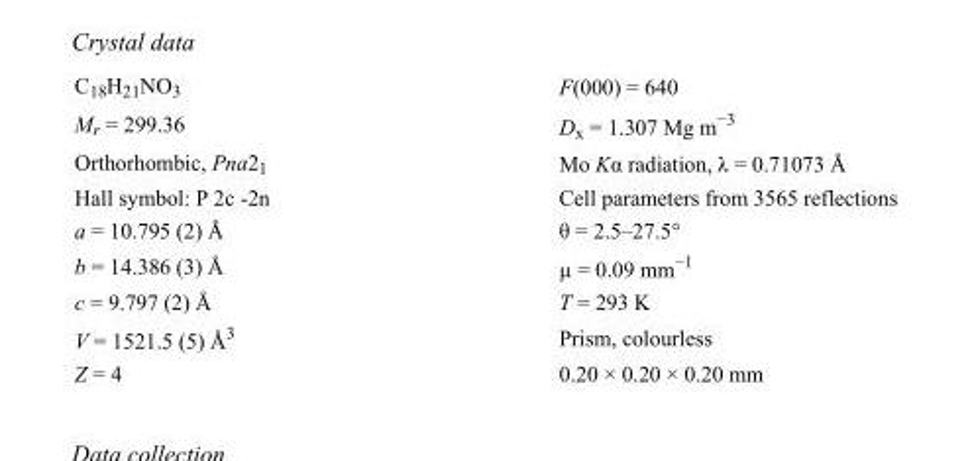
<table><tbody><tr><td>C<sub>18</sub>H<sub>21</sub>NO<sub>3</sub></td><td>F(000) = 640</td></tr><tr><td>M<sub>r</sub> = 299.36</td><td>D<sub>x</sub> = 1.307 Mg m<sup>−3</sup></td></tr><tr><td>Orthorhombic, Pna2<sub>1</sub></td><td>Mo Kα radiation, λ = 0.71073 Å</td></tr><tr><td>Hall symbol: P 2c -2n</td><td>Cell parameters from 3565 reflections</td></tr><tr><td>a = 10.795 (2) Å</td><td>θ = 2.5–27.5°</td></tr><tr><td>b = 14.386 (3) Å</td><td>µ = 0.09 mm<sup>−1</sup></td></tr><tr><td>c = 9.797 (2) Å</td><td>T = 293 K</td></tr><tr><td>V = 1521.5 (5) Å<sup>3</sup></td><td>Prism, colourless</td></tr><tr><td>Z = 4</td><td>0.20 × 0.20 × 0.20 mm</td></tr></tbody></table>